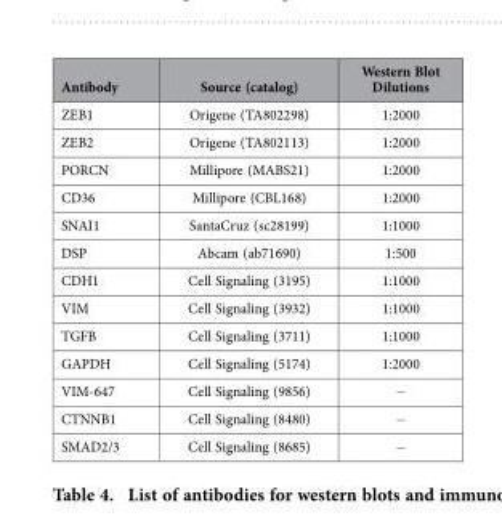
<table><thead><tr><td>Antibody</td><td>Source (catalog)</td><td>Western Blot Dilutions</td></tr></thead><tbody><tr><td>ZEB1</td><td>Origene (TA802298)</td><td>1:2000</td></tr><tr><td>ZEB2</td><td>Origene (TA802113)</td><td>1:2000</td></tr><tr><td>PORCN</td><td>Millipore (MABS21)</td><td>1:2000</td></tr><tr><td>CD36</td><td>Millipore (CBL168)</td><td>1:2000</td></tr><tr><td>SNAI1</td><td>SantaCruz (sc28199)</td><td>1:1000</td></tr><tr><td>DSP</td><td>Abcam (ab71690)</td><td>1:500</td></tr><tr><td>CDH1</td><td>Cell Signaling (3195)</td><td>1:1000</td></tr><tr><td>VIM</td><td>Cell Signaling (3932)</td><td>1:1000</td></tr><tr><td>TGFB</td><td>Cell Signaling (3711)</td><td>1:1000</td></tr><tr><td>GAPDH</td><td>Cell Signaling (5174)</td><td>1:2000</td></tr><tr><td>VIM-647</td><td>Cell Signaling (9856)</td><td>−</td></tr><tr><td>CTNNB1</td><td>Cell Signaling (8480)</td><td>−</td></tr><tr><td>SMAD2/3</td><td>Cell Signaling (8685)</td><td>−</td></tr></tbody></table>